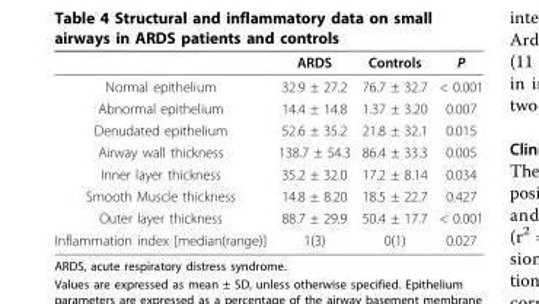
<table><thead><tr><td></td><td>ARDS</td><td>Controls</td><td>P</td></tr></thead><tbody><tr><td>Normal epithelium</td><td>32.9 ± 27.2</td><td>76.7 ± 32.7</td><td>&lt; 0.001</td></tr><tr><td>Abnormal epithelium</td><td>14.4 ± 14.8</td><td>1.37 ± 3.20</td><td>0.007</td></tr><tr><td>Denudated epithelium</td><td>52.6 ± 35.2</td><td>21.8 ± 32.1</td><td>0.015</td></tr><tr><td>Airway wall thickness</td><td>138.7 ± 54.3</td><td>86.4 ± 33.3</td><td>0.005</td></tr><tr><td>Inner layer thickness</td><td>35.2 ± 32.0</td><td>17.2 ± 8.14</td><td>0.034</td></tr><tr><td>Smooth Muscle thickness</td><td>14.8 ± 8.20</td><td>18.5 ± 22.7</td><td>0.427</td></tr><tr><td>Outer layer thickness</td><td>88.7 ± 29.9</td><td>50.4 ± 17.7</td><td>&lt; 0.001</td></tr><tr><td>Inflammation index [median(range)]</td><td>1(3)</td><td>0(1)</td><td>0.027</td></tr></tbody></table>